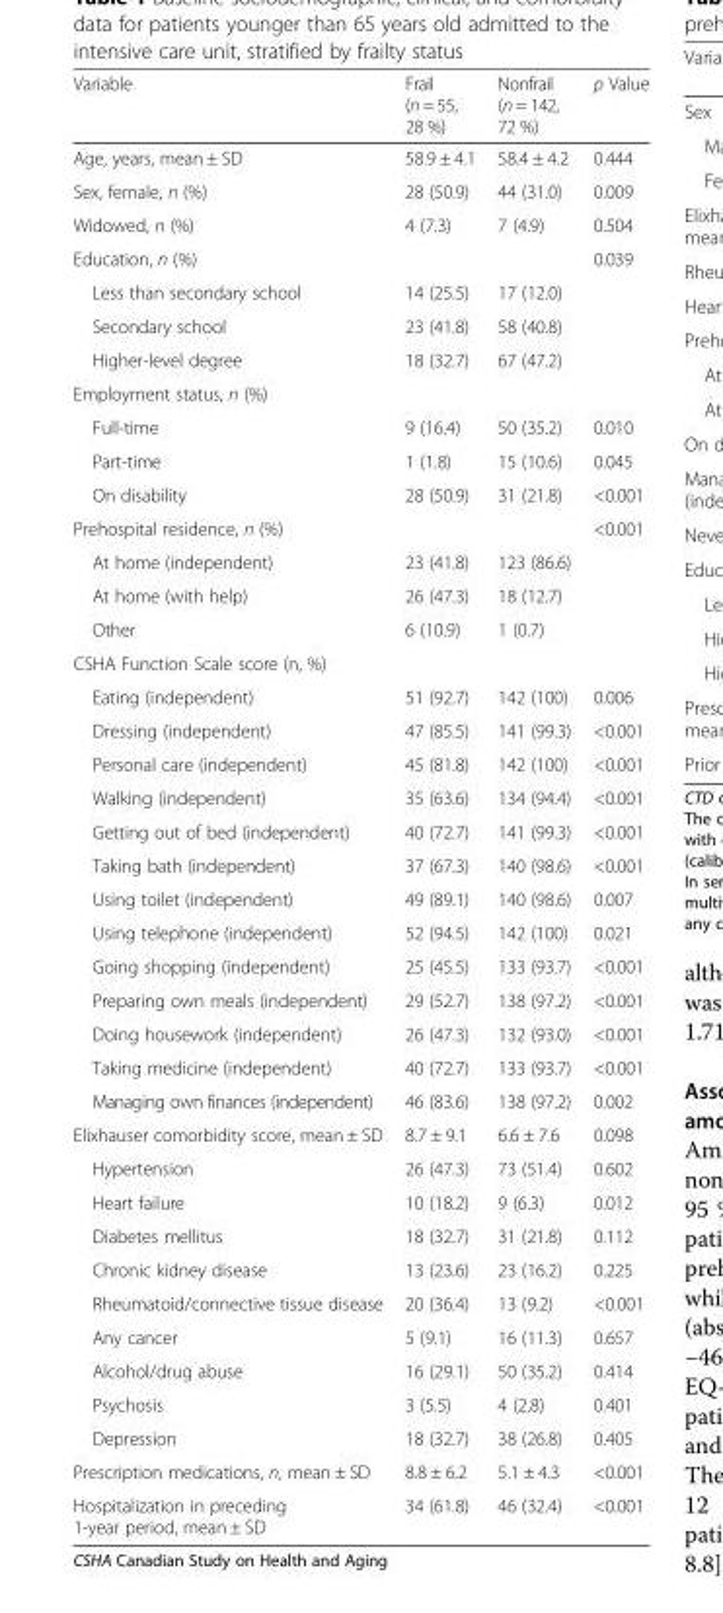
<table><thead><tr><td>Variable</td><td>Frail (n = 55, 28 %)</td><td>Nonfrail (n = 142, 72 %)</td><td>p Value</td></tr></thead><tbody><tr><td>Age, years, mean ± SD</td><td>58.9 ± 4.1</td><td>58.4 ± 4.2</td><td>0.444</td></tr><tr><td>Sex, female, n (%)</td><td>28 (50.9)</td><td>44 (31.0)</td><td>0.009</td></tr><tr><td>Widowed, n (%)</td><td>4 (7.3)</td><td>7 (4.9)</td><td>0.504</td></tr><tr><td>Education, n (%)</td><td></td><td></td><td>0.039</td></tr><tr><td>Less than secondary school</td><td>14 (25.5)</td><td>17 (12.0)</td><td></td></tr><tr><td>Secondary school</td><td>23 (41.8)</td><td>58 (40.8)</td><td></td></tr><tr><td>Higher-level degree</td><td>18 (32.7)</td><td>67 (47.2)</td><td></td></tr><tr><td colspan="4">Employment status, n (%)</td></tr><tr><td>Full-time</td><td>9 (16.4)</td><td>50 (35.2)</td><td>0.010</td></tr><tr><td>Part-time</td><td>1 (1.8)</td><td>15 (10.6)</td><td>0.045</td></tr><tr><td>On disability</td><td>28 (50.9)</td><td>31 (21.8)</td><td>&lt;0.001</td></tr><tr><td>Prehospital residence, n (%)</td><td></td><td></td><td>&lt;0.001</td></tr><tr><td>At home (independent)</td><td>23 (41.8)</td><td>123 (86.6)</td><td></td></tr><tr><td>At home (with help)</td><td>26 (47.3)</td><td>18 (12.7)</td><td></td></tr><tr><td>Other</td><td>6 (10.9)</td><td>1 (0.7)</td><td></td></tr><tr><td colspan="4">CSHA Function Scale score (n, %)</td></tr><tr><td>Eating (independent)</td><td>51 (92.7)</td><td>142 (100)</td><td>0.006</td></tr><tr><td>Dressing (independent)</td><td>47 (85.5)</td><td>141 (99.3)</td><td>&lt;0.001</td></tr><tr><td>Personal care (independent)</td><td>45 (81.8)</td><td>142 (100)</td><td>&lt;0.001</td></tr><tr><td>Walking (independent)</td><td>35 (63.6)</td><td>134 (94.4)</td><td>&lt;0.001</td></tr><tr><td>Getting out of bed (independent)</td><td>40 (72.7)</td><td>141 (99.3)</td><td>&lt;0.001</td></tr><tr><td>Taking bath (independent)</td><td>37 (67.3)</td><td>140 (98.6)</td><td>&lt;0.001</td></tr><tr><td>Using toilet (independent)</td><td>49 (89.1)</td><td>140 (98.6)</td><td>0.007</td></tr><tr><td>Using telephone (independent)</td><td>52 (94.5)</td><td>142 (100)</td><td>0.021</td></tr><tr><td>Going shopping (independent)</td><td>25 (45.5)</td><td>133 (93.7)</td><td>&lt;0.001</td></tr><tr><td>Preparing own meals (independent)</td><td>29 (52.7)</td><td>138 (97.2)</td><td>&lt;0.001</td></tr><tr><td>Doing housework (independent)</td><td>26 (47.3)</td><td>132 (93.0)</td><td>&lt;0.001</td></tr><tr><td>Taking medicine (independent)</td><td>40 (72.7)</td><td>133 (93.7)</td><td>&lt;0.001</td></tr><tr><td>Managing own finances (independent)</td><td>46 (83.6)</td><td>138 (97.2)</td><td>0.002</td></tr><tr><td>Elixhauser comorbidity score, mean ± SD</td><td>8.7 ± 9.1</td><td>6.6 ± 7.6</td><td>0.098</td></tr><tr><td>Hypertension</td><td>26 (47.3)</td><td>73 (51.4)</td><td>0.602</td></tr><tr><td>Heart failure</td><td>10 (18.2)</td><td>9 (6.3)</td><td>0.012</td></tr><tr><td>Diabetes mellitus</td><td>18 (32.7)</td><td>31 (21.8)</td><td>0.112</td></tr><tr><td>Chronic kidney disease</td><td>13 (23.6)</td><td>23 (16.2)</td><td>0.225</td></tr><tr><td>Rheumatoid/connective tissue disease</td><td>20 (36.4)</td><td>13 (9.2)</td><td>&lt;0.001</td></tr><tr><td>Any cancer</td><td>5 (9.1)</td><td>16 (11.3)</td><td>0.657</td></tr><tr><td>Alcohol/drug abuse</td><td>16 (29.1)</td><td>50 (35.2)</td><td>0.414</td></tr><tr><td>Psychosis</td><td>3 (5.5)</td><td>4 (2.8)</td><td>0.401</td></tr><tr><td>Depression</td><td>18 (32.7)</td><td>38 (26.8)</td><td>0.405</td></tr><tr><td>Prescription medications, n, mean ± SD</td><td>8.8 ± 6.2</td><td>5.1 ± 4.3</td><td>&lt;0.001</td></tr><tr><td>Hospitalization in preceding 1-year period, mean ± SD</td><td>34 (61.8)</td><td>46 (32.4)</td><td>&lt;0.001</td></tr></tbody></table>